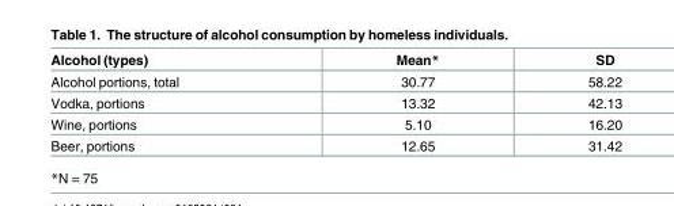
<table><thead><tr><td>Alcohol (types)</td><td>Mean*</td><td>SD</td></tr></thead><tbody><tr><td>Alcohol portions, total</td><td>30.77</td><td>58.22</td></tr><tr><td>Vodka, portions</td><td>13.32</td><td>42.13</td></tr><tr><td>Wine, portions</td><td>5.10</td><td>16.20</td></tr><tr><td>Beer, portions</td><td>12.65</td><td>31.42</td></tr></tbody></table>